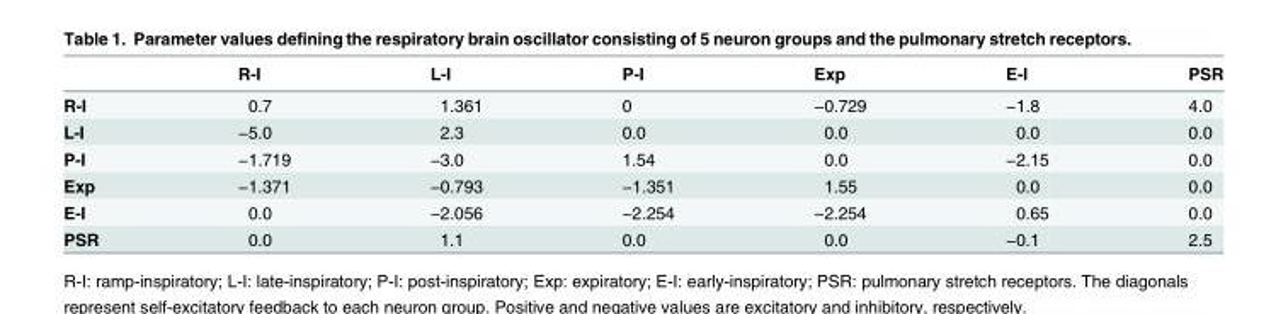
<table><thead><tr><td></td><td>R-I</td><td>L-I</td><td>P-I</td><td>Exp</td><td>E-I</td><td>PSR</td></tr></thead><tbody><tr><td>R-I</td><td>0.7</td><td>1.361</td><td>0</td><td>−0.729</td><td>−1.8</td><td>4.0</td></tr><tr><td>L-I</td><td>−5.0</td><td>2.3</td><td>0.0</td><td>0.0</td><td>0.0</td><td>0.0</td></tr><tr><td>P-I</td><td>−1.719</td><td>−3.0</td><td>1.54</td><td>0.0</td><td>−2.15</td><td>0.0</td></tr><tr><td>Exp</td><td>−1.371</td><td>−0.793</td><td>−1.351</td><td>1.55</td><td>0.0</td><td>0.0</td></tr><tr><td>E-I</td><td>0.0</td><td>−2.056</td><td>−2.254</td><td>−2.254</td><td>0.65</td><td>0.0</td></tr><tr><td>PSR</td><td>0.0</td><td>1.1</td><td>0.0</td><td>0.0</td><td>−0.1</td><td>2.5</td></tr></tbody></table>